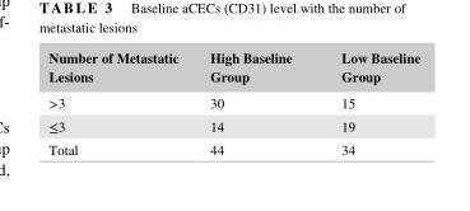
<table><thead><tr><td>Number of Metastatic Lesions</td><td>High Baseline Group</td><td>Low Baseline Group</td></tr></thead><tbody><tr><td>&gt;3</td><td>30</td><td>15</td></tr><tr><td>≤3</td><td>14</td><td>19</td></tr><tr><td>Total</td><td>44</td><td>34</td></tr></tbody></table>